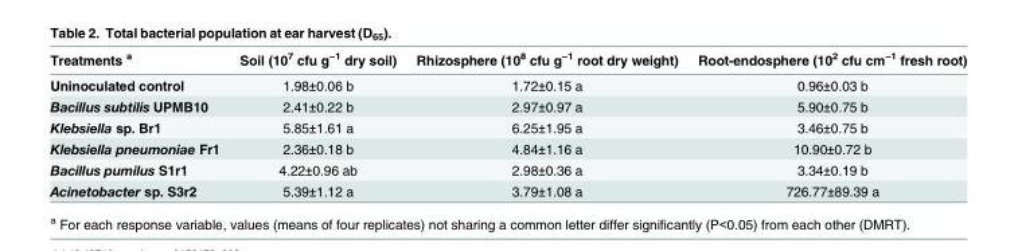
<table><thead><tr><td>Treatments <sup>a</sup></td><td>Soil (10<sup>7</sup> cfu g<sup>−1</sup> dry soil)</td><td>Rhizosphere (10<sup>8</sup> cfu g<sup>−1</sup> root dry weight)</td><td>Root-endosphere (10<sup>2</sup> cfu cm<sup>−1</sup> fresh root)</td></tr></thead><tbody><tr><td>Uninoculated control</td><td>1.98±0.06 b</td><td>1.72±0.15 a</td><td>0.96±0.03 b</td></tr><tr><td>Bacillus subtilis UPMB10</td><td>2.41±0.22 b</td><td>2.97±0.97 a</td><td>5.90±0.75 b</td></tr><tr><td>Klebsiella sp. Br1</td><td>5.85±1.61 a</td><td>6.25±1.95 a</td><td>3.46±0.75 b</td></tr><tr><td>Klebsiella pneumoniae Fr1</td><td>2.36±0.18 b</td><td>4.84±1.16 a</td><td>10.90±0.72 b</td></tr><tr><td>Bacillus pumilus S1r1</td><td>4.22±0.96 ab</td><td>2.98±0.36 a</td><td>3.34±0.19 b</td></tr><tr><td>Acinetobacter sp. S3r2</td><td>5.39±1.12 a</td><td>3.79±1.08 a</td><td>726.77±89.39 a</td></tr></tbody></table>